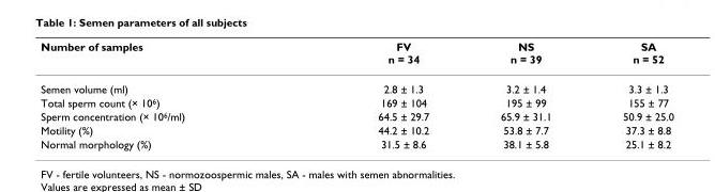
<table><thead><tr><td>Number of samples</td><td>FV n = 34</td><td>NS n = 39</td><td>SA n = 52</td></tr></thead><tbody><tr><td>Semen volume (ml)</td><td>2.8 ± 1.3</td><td>3.2 ± 1.4</td><td>3.3 ± 1.3</td></tr><tr><td>Total sperm count (× 10<sup>6</sup>)</td><td>169 ± 104</td><td>195 ± 99</td><td>155 ± 77</td></tr><tr><td>Sperm concentration (× 10<sup>6</sup>/ml)</td><td>64.5 ± 29.7</td><td>65.9 ± 31.1</td><td>50.9 ± 25.0</td></tr><tr><td>Motility (%)</td><td>44.2 ± 10.2</td><td>53.8 ± 7.7</td><td>37.3 ± 8.8</td></tr><tr><td>Normal morphology (%)</td><td>31.5 ± 8.6</td><td>38.1 ± 5.8</td><td>25.1 ± 8.2</td></tr></tbody></table>